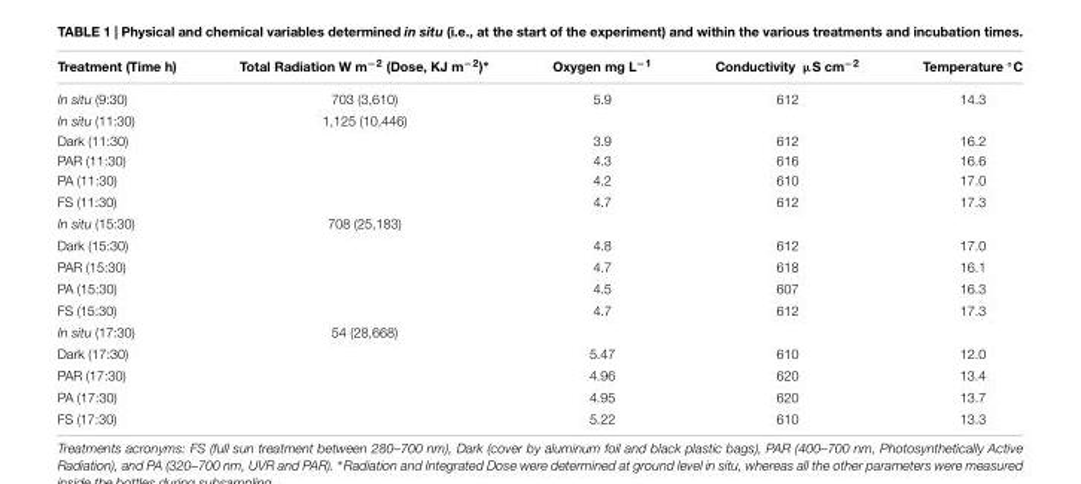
<table><thead><tr><td>Treatment (Time h)</td><td>Total Radiation W m<sup>−2</sup> (Dose, KJ m<sup>−2</sup>)∗</td><td>Oxygen mg L<sup>−1</sup></td><td>Conductivity µS cm<sup>−2</sup></td><td>Temperature ◦C</td></tr></thead><tbody><tr><td>In situ (9:30)</td><td>703 (3,610)</td><td>5.9</td><td>612</td><td>14.3</td></tr><tr><td>In situ (11:30)</td><td>1,125 (10,446)</td><td></td><td></td><td></td></tr><tr><td>Dark (11:30)</td><td></td><td>3.9</td><td>612</td><td>16.2</td></tr><tr><td>PAR (11:30)</td><td></td><td>4.3</td><td>616</td><td>16.6</td></tr><tr><td>PA (11:30)</td><td></td><td>4.2</td><td>610</td><td>17.0</td></tr><tr><td>FS (11:30)</td><td></td><td>4.7</td><td>612</td><td>17.3</td></tr><tr><td>In situ (15:30)</td><td>708 (25,183)</td><td></td><td></td><td></td></tr><tr><td>Dark (15:30)</td><td></td><td>4.8</td><td>612</td><td>17.0</td></tr><tr><td>PAR (15:30)</td><td></td><td>4.7</td><td>618</td><td>16.1</td></tr><tr><td>PA (15:30)</td><td></td><td>4.5</td><td>607</td><td>16.3</td></tr><tr><td>FS (15:30)</td><td></td><td>4.7</td><td>612</td><td>17.3</td></tr><tr><td>In situ (17:30)</td><td>54 (28,668)</td><td></td><td></td><td></td></tr><tr><td>Dark (17:30)</td><td></td><td>5.47</td><td>610</td><td>12.0</td></tr><tr><td>PAR (17:30)</td><td></td><td>4.96</td><td>620</td><td>13.4</td></tr><tr><td>PA (17:30)</td><td></td><td>4.95</td><td>620</td><td>13.7</td></tr><tr><td>FS (17:30)</td><td></td><td>5.22</td><td>610</td><td>13.3</td></tr></tbody></table>